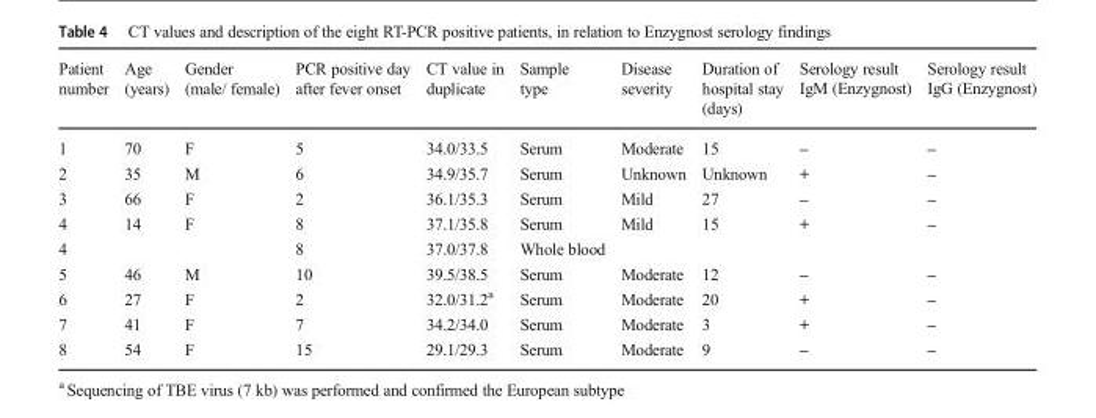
<table><thead><tr><td>Patient number</td><td>Age (years)</td><td>Gender (male/ female)</td><td>PCR positive day after fever onset</td><td>CT value in duplicate</td><td>Sample type</td><td>Disease severity</td><td>Duration of hospital stay (days)</td><td>Serology result IgM (Enzygnost)</td><td>Serology result IgG (Enzygnost)</td></tr></thead><tbody><tr><td>1</td><td>70</td><td>F</td><td>5</td><td>34.0/33.5</td><td>Serum</td><td>Moderate</td><td>15</td><td>–</td><td>–</td></tr><tr><td>2</td><td>35</td><td>M</td><td>6</td><td>34.9/35.7</td><td>Serum</td><td>Unknown</td><td>Unknown</td><td>+</td><td>–</td></tr><tr><td>3</td><td>66</td><td>F</td><td>2</td><td>36.1/35.3</td><td>Serum</td><td>Mild</td><td>27</td><td>–</td><td>–</td></tr><tr><td>4</td><td>14</td><td>F</td><td>8</td><td>37.1/35.8</td><td>Serum</td><td>Mild</td><td>15</td><td>+</td><td>–</td></tr><tr><td>4</td><td></td><td></td><td>8</td><td>37.0/37.8</td><td>Whole blood</td><td></td><td></td><td></td><td></td></tr><tr><td>5</td><td>46</td><td>M</td><td>10</td><td>39.5/38.5</td><td>Serum</td><td>Moderate</td><td>12</td><td>–</td><td>–</td></tr><tr><td>6</td><td>27</td><td>F</td><td>2</td><td>32.0/31.2<sup>a</sup></td><td>Serum</td><td>Moderate</td><td>20</td><td>+</td><td>–</td></tr><tr><td>7</td><td>41</td><td>F</td><td>7</td><td>34.2/34.0</td><td>Serum</td><td>Moderate</td><td>3</td><td>+</td><td>–</td></tr><tr><td>8</td><td>54</td><td>F</td><td>15</td><td>29.1/29.3</td><td>Serum</td><td>Moderate</td><td>9</td><td>–</td><td>–</td></tr></tbody></table>